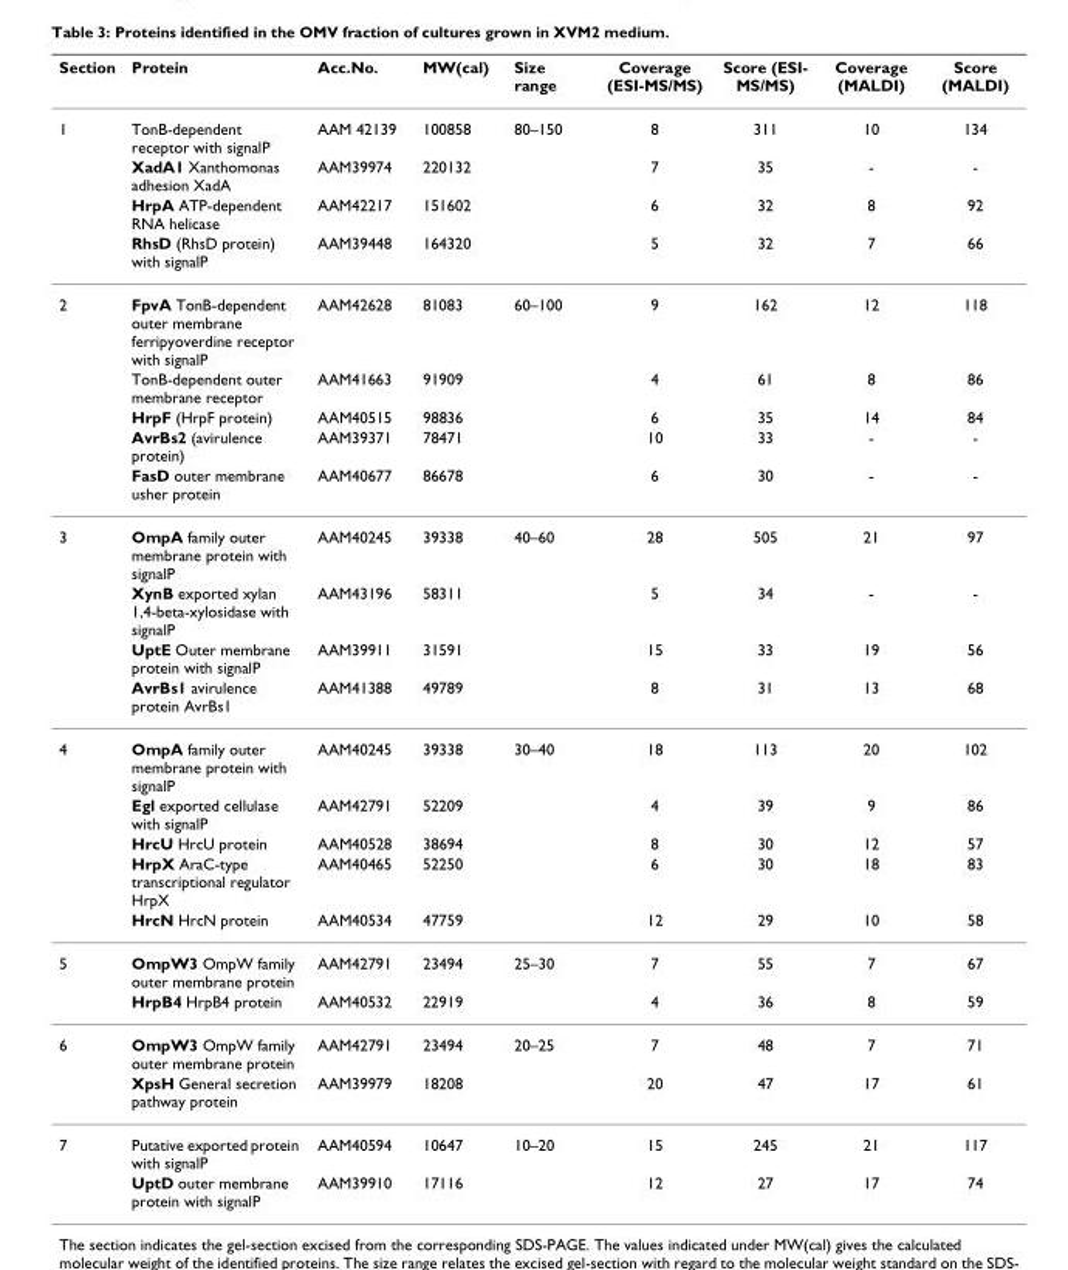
<table><thead><tr><td>Section</td><td>Protein</td><td>Acc.No.</td><td>MW(cal)</td><td>Size range</td><td>Coverage (ESI-MS/MS)</td><td>Score (ESI- MS/MS)</td><td>Coverage (MALDI)</td><td>Score (MALDI)</td></tr></thead><tbody><tr><td rowspan="4">1</td><td>TonB-dependent receptor with signalP</td><td>AAM 42139</td><td>100858</td><td>80–150</td><td>8</td><td>311</td><td>10</td><td>134</td></tr><tr><td>XadA1 Xanthomonas adhesion XadA</td><td>AAM39974</td><td>220132</td><td></td><td>7</td><td>35</td><td>-</td><td>-</td></tr><tr><td>HrpA ATP-dependent RNA helicase</td><td>AAM42217</td><td>151602</td><td></td><td>6</td><td>32</td><td>8</td><td>92</td></tr><tr><td>RhsD (RhsD protein) with signalP</td><td>AAM39448</td><td>164320</td><td></td><td>5</td><td>32</td><td>7</td><td>66</td></tr><tr><td rowspan="5">2</td><td>FpvA TonB-dependent outer membrane ferripyoverdine receptor with signalP</td><td>AAM42628</td><td>81083</td><td>60–100</td><td>9</td><td>162</td><td>12</td><td>118</td></tr><tr><td>TonB-dependent outer membrane receptor</td><td>AAM41663</td><td>91909</td><td></td><td>4</td><td>61</td><td>8</td><td>86</td></tr><tr><td>HrpF (HrpF protein)</td><td>AAM40515</td><td>98836</td><td></td><td>6</td><td>35</td><td>14</td><td>84</td></tr><tr><td>AvrBs2 (avirulence protein)</td><td>AAM39371</td><td>78471</td><td></td><td>10</td><td>33</td><td>-</td><td>-</td></tr><tr><td>FasD outer membrane usher protein</td><td>AAM40677</td><td>86678</td><td></td><td>6</td><td>30</td><td>-</td><td>-</td></tr><tr><td rowspan="4">3</td><td>OmpA family outer membrane protein with signalP</td><td>AAM40245</td><td>39338</td><td>40–60</td><td>28</td><td>505</td><td>21</td><td>97</td></tr><tr><td>XynB exported xylan 1,4-beta-xylosidase with signalP</td><td>AAM43196</td><td>58311</td><td></td><td>5</td><td>34</td><td>-</td><td>-</td></tr><tr><td>UptE Outer membrane protein with signalP</td><td>AAM39911</td><td>31591</td><td></td><td>15</td><td>33</td><td>19</td><td>56</td></tr><tr><td>AvrBs1 avirulence protein AvrBs1</td><td>AAM41388</td><td>49789</td><td></td><td>8</td><td>31</td><td>13</td><td>68</td></tr><tr><td rowspan="5">4</td><td>OmpA family outer membrane protein with signalP</td><td>AAM40245</td><td>39338</td><td>30–40</td><td>18</td><td>113</td><td>20</td><td>102</td></tr><tr><td>Egl exported cellulase with signalP</td><td>AAM42791</td><td>52209</td><td></td><td>4</td><td>39</td><td>9</td><td>86</td></tr><tr><td>HrcU HrcU protein</td><td>AAM40528</td><td>38694</td><td></td><td>8</td><td>30</td><td>12</td><td>57</td></tr><tr><td>HrpX AraC-type transcriptional regulator HrpX</td><td>AAM40465</td><td>52250</td><td></td><td>6</td><td>30</td><td>18</td><td>83</td></tr><tr><td>HrcN HrcN protein</td><td>AAM40534</td><td>47759</td><td></td><td>12</td><td>29</td><td>10</td><td>58</td></tr><tr><td rowspan="2">5</td><td>OmpW3 OmpW family outer membrane protein</td><td>AAM42791</td><td>23494</td><td>25–30</td><td>7</td><td>55</td><td>7</td><td>67</td></tr><tr><td>HrpB4 HrpB4 protein</td><td>AAM40532</td><td>22919</td><td></td><td>4</td><td>36</td><td>8</td><td>59</td></tr><tr><td rowspan="2">6</td><td>OmpW3 OmpW family outer membrane protein</td><td>AAM42791</td><td>23494</td><td>20–25</td><td>7</td><td>48</td><td>7</td><td>71</td></tr><tr><td>XpsH General secretion pathway protein</td><td>AAM39979</td><td>18208</td><td></td><td>20</td><td>47</td><td>17</td><td>61</td></tr><tr><td rowspan="2">7</td><td>Putative exported protein with signalP</td><td>AAM40594</td><td>10647</td><td>10–20</td><td>15</td><td>245</td><td>21</td><td>117</td></tr><tr><td>UptD outer membrane protein with signalP</td><td>AAM39910</td><td>17116</td><td></td><td>12</td><td>27</td><td>17</td><td>74</td></tr></tbody></table>